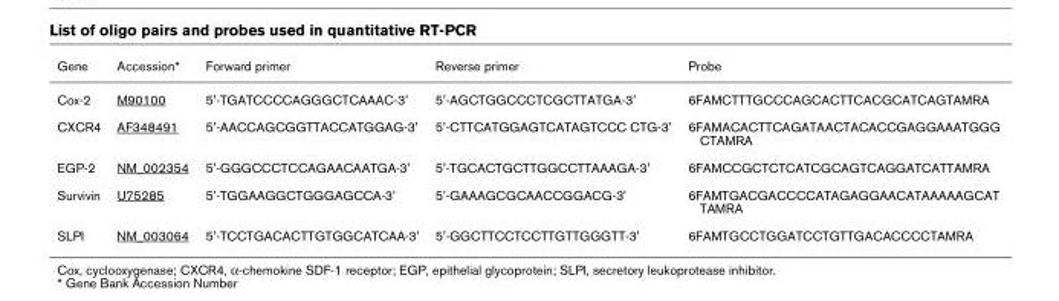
<table><thead><tr><td>Gene</td><td>Accession*</td><td>Forward primer</td><td>Reverse primer</td><td>Probe</td></tr></thead><tbody><tr><td>Cox-2</td><td>M90100</td><td>5&#x27;-TGATCCCCAGGGCTCAAAC-3&#x27;</td><td>5&#x27;-AGCTGGCCCTCGCTTATGA-3&#x27;</td><td>6FAMCTTTGCCCAGCACTTCACGCATCAGTAMRA</td></tr><tr><td>CXCR4</td><td>AF348491</td><td>5&#x27;-AACCAGCGGTTACCATGGAG-3&#x27;</td><td>5&#x27;-CTTCATGGAGTCATAGTCCC CTG-3&#x27;</td><td>6FAMACACTTCAGATAACTACACCGAGGAAATGGG CTAMRA</td></tr><tr><td>EGP-2</td><td>NM_002354</td><td>5&#x27;-GGGCCCTCCAGAACAATGA-3&#x27;</td><td>5&#x27;-TGCACTGCTTGGCCTTAAAGA-3&#x27;</td><td>6FAMCCGCTCTCATCGCAGTCAGGATCATTAMRA</td></tr><tr><td>Survivin</td><td>U75285</td><td>5&#x27;-TGGAAGGCTGGGAGCCA-3&#x27;</td><td>5&#x27;-GAAAGCGCAACCGGACG-3&#x27;</td><td>6FAMTGACGACCCCATAGAGGAACATAAAAAGCAT TAMRA</td></tr><tr><td>SLPI</td><td>NM_003064</td><td>5&#x27;-TCCTGACACTTGTGGCATCAA-3&#x27;</td><td>5&#x27;-GGCTTCCTCCTTGTTGGGTT-3&#x27;</td><td>6FAMTGCCTGGATCCTGTTGACACCCCTAMRA</td></tr></tbody></table>